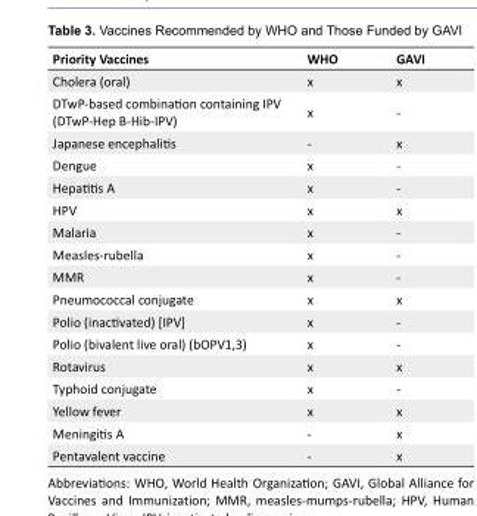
<table><tbody><tr><td>Priority Vaccines</td><td>WHO</td><td>GAVI</td></tr><tr><td>Cholera (oral)</td><td>x</td><td>x</td></tr><tr><td>DTwP-based combination containing IPV (DTwP-Hep B-Hib-IPV)</td><td>x</td><td>-</td></tr><tr><td>Japanese encephalitis</td><td>-</td><td>x</td></tr><tr><td>Dengue</td><td>x</td><td>-</td></tr><tr><td>Hepatitis A</td><td>x</td><td>-</td></tr><tr><td>HPV</td><td>x</td><td>x</td></tr><tr><td>Malaria</td><td>x</td><td>-</td></tr><tr><td>Measles-rubella</td><td>x</td><td>-</td></tr><tr><td>MMR</td><td>x</td><td>-</td></tr><tr><td>Pneumococcal conjugate</td><td>x</td><td>x</td></tr><tr><td>Polio (inactivated) [IPV]</td><td>x</td><td>-</td></tr><tr><td>Polio (bivalent live oral) (bOPV1,3)</td><td>x</td><td>-</td></tr><tr><td>Rotavirus</td><td>x</td><td>x</td></tr><tr><td>Typhoid conjugate</td><td>x</td><td>-</td></tr><tr><td>Yellow fever</td><td>x</td><td>x</td></tr><tr><td>Meningitis A</td><td>-</td><td>x</td></tr><tr><td>Pentavalent vaccine</td><td>-</td><td>x</td></tr></tbody></table>